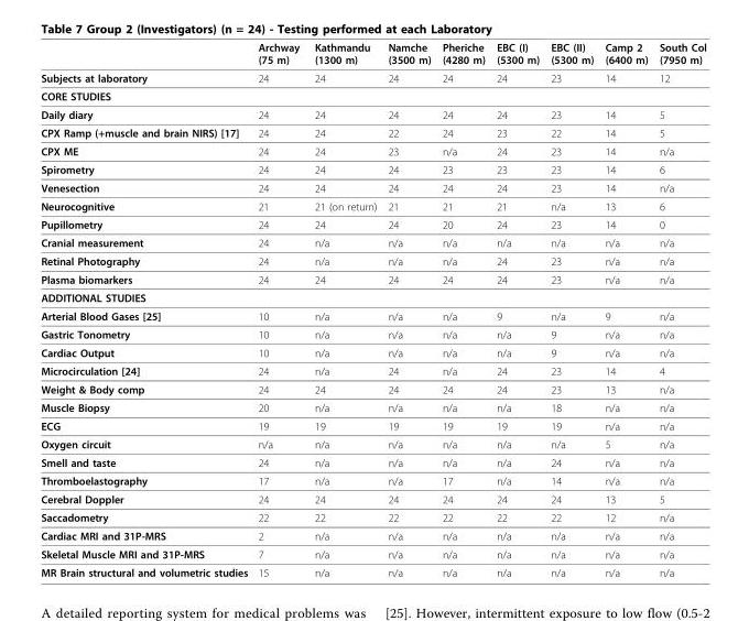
<table><thead><tr><td></td><td>Archway (75 m)</td><td>Kathmandu (1300 m)</td><td>Namche (3500 m)</td><td>Pheriche (4280 m)</td><td>EBC (I) (5300 m)</td><td>EBC (II) (5300 m)</td><td>Camp 2 (6400 m)</td><td>South Col (7950 m)</td></tr></thead><tbody><tr><td>Subjects at laboratory</td><td>24</td><td>24</td><td>24</td><td>24</td><td>24</td><td>23</td><td>14</td><td>12</td></tr><tr><td colspan="9">CORE STUDIES</td></tr><tr><td>Daily diary</td><td>24</td><td>24</td><td>24</td><td>24</td><td>24</td><td>23</td><td>14</td><td>5</td></tr><tr><td>CPX Ramp (+muscle and brain NIRS) [17]</td><td>24</td><td>24</td><td>22</td><td>24</td><td>23</td><td>22</td><td>14</td><td>5</td></tr><tr><td>CPX ME</td><td>24</td><td>24</td><td>23</td><td>n/a</td><td>24</td><td>23</td><td>14</td><td>n/a</td></tr><tr><td>Spirometry</td><td>24</td><td>24</td><td>24</td><td>23</td><td>23</td><td>23</td><td>14</td><td>6</td></tr><tr><td>Venesection</td><td>24</td><td>24</td><td>24</td><td>24</td><td>24</td><td>23</td><td>14</td><td>n/a</td></tr><tr><td>Neurocognitive</td><td>21</td><td>21 (on return)</td><td>21</td><td>21</td><td>21</td><td>n/a</td><td>13</td><td>6</td></tr><tr><td>Pupillometry</td><td>24</td><td>24</td><td>24</td><td>20</td><td>24</td><td>23</td><td>14</td><td>0</td></tr><tr><td>Cranial measurement</td><td>24</td><td>n/a</td><td>n/a</td><td>n/a</td><td>n/a</td><td>n/a</td><td>n/a</td><td>n/a</td></tr><tr><td>Retinal Photography</td><td>24</td><td>n/a</td><td>n/a</td><td>n/a</td><td>24</td><td>23</td><td>n/a</td><td>n/a</td></tr><tr><td>Plasma biomarkers</td><td>24</td><td>24</td><td>24</td><td>24</td><td>24</td><td>23</td><td>n/a</td><td>n/a</td></tr><tr><td colspan="9">ADDITIONAL STUDIES</td></tr><tr><td>Arterial Blood Gases [25]</td><td>10</td><td>n/a</td><td>n/a</td><td>n/a</td><td>9</td><td>n/a</td><td>9</td><td>n/a</td></tr><tr><td>Gastric Tonometry</td><td>10</td><td>n/a</td><td>n/a</td><td>n/a</td><td>n/a</td><td>9</td><td>n/a</td><td>n/a</td></tr><tr><td>Cardiac Output</td><td>10</td><td>n/a</td><td>n/a</td><td>n/a</td><td>n/a</td><td>9</td><td>n/a</td><td>n/a</td></tr><tr><td>Microcirculation [24]</td><td>24</td><td>n/a</td><td>24</td><td>n/a</td><td>24</td><td>23</td><td>14</td><td>4</td></tr><tr><td>Weight &amp; Body comp</td><td>24</td><td>24</td><td>24</td><td>24</td><td>24</td><td>23</td><td>13</td><td>n/a</td></tr><tr><td>Muscle Biopsy</td><td>20</td><td>n/a</td><td>n/a</td><td>n/a</td><td>n/a</td><td>18</td><td>n/a</td><td>n/a</td></tr><tr><td>ECG</td><td>19</td><td>19</td><td>19</td><td>19</td><td>19</td><td>19</td><td>n/a</td><td>n/a</td></tr><tr><td>Oxygen circuit</td><td>n/a</td><td>n/a</td><td>n/a</td><td>n/a</td><td>n/a</td><td>n/a</td><td>5</td><td>n/a</td></tr><tr><td>Smell and taste</td><td>24</td><td>n/a</td><td>n/a</td><td>n/a</td><td>n/a</td><td>24</td><td>n/a</td><td>n/a</td></tr><tr><td>Thromboelastography</td><td>17</td><td>n/a</td><td>n/a</td><td>17</td><td>n/a</td><td>14</td><td>n/a</td><td>n/a</td></tr><tr><td>Cerebral Doppler</td><td>24</td><td>24</td><td>24</td><td>24</td><td>24</td><td>24</td><td>13</td><td>5</td></tr><tr><td>Saccadometry</td><td>22</td><td>22</td><td>22</td><td>22</td><td>22</td><td>22</td><td>12</td><td>n/a</td></tr><tr><td>Cardiac MRI and 31P-MRS</td><td>2</td><td>n/a</td><td>n/a</td><td>n/a</td><td>n/a</td><td>n/a</td><td>n/a</td><td>n/a</td></tr><tr><td>Skeletal Muscle MRI and 31P-MRS</td><td>7</td><td>n/a</td><td>n/a</td><td>n/a</td><td>n/a</td><td>n/a</td><td>n/a</td><td>n/a</td></tr><tr><td>MR Brain structural and volumetric studies</td><td>15</td><td>n/a</td><td>n/a</td><td>n/a</td><td>n/a</td><td>n/a</td><td>n/a</td><td>n/a</td></tr></tbody></table>